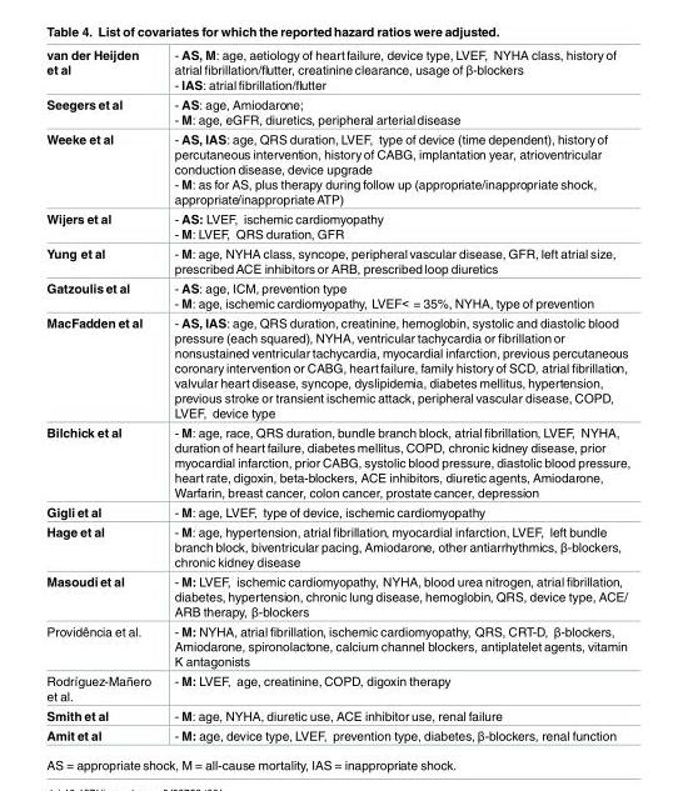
<table><tbody><tr><td>van der Heijden et al</td><td>- AS, M: age, aetiology of heart failure, device type, LVEF, NYHA class, history of atrial fibrillation/flutter, creatinine clearance, usage of β-blockers - IAS: atrial fibrillation/flutter</td></tr><tr><td>Seegers et al</td><td>- AS: age, Amiodarone; - M: age, eGFR, diuretics, peripheral arterialdisease</td></tr><tr><td>Weeke et al</td><td>- AS, IAS: age, QRS duration, LVEF, type of device (time dependent), history of percutaneous intervention, history of CABG, implantation year, atrioventricular conduction disease, device upgrade - M: as for AS, plus therapy during follow up (appropriate/inappropriate shock, appropriate/inappropriateATP)</td></tr><tr><td>Wijers et al</td><td>- AS: LVEF, ischemic cardiomyopathy - M: LVEF, QRS duration, GFR</td></tr><tr><td>Yung et al</td><td>- M: age, NYHA class, syncope, peripheral vascular disease, GFR, left atrial size, prescribed ACE inhibitors or ARB, prescribed loop diuretics</td></tr><tr><td>Gatzoulis et al</td><td>- AS: age, ICM, prevention type - M: age, ischemic cardiomyopathy, LVEF&lt; = 35%, NYHA, type of prevention</td></tr><tr><td>MacFadden et al</td><td>- AS, IAS: age, QRS duration, creatinine, hemoglobin, systolic and diastolic blood pressure (each squared), NYHA, ventricular tachycardia or fibrillation or nonsustained ventricular tachycardia, myocardial infarction, previous percutaneous coronary intervention or CABG, heart failure, family history of SCD, atrial fibrillation, valvular heart disease, syncope, dyslipidemia, diabetes mellitus, hypertension, previous stroke or transient ischemic attack, peripheral vascular disease, COPD, LVEF, device type</td></tr><tr><td>Bilchick et al</td><td>- M: age, race, QRS duration, bundle branch block, atrial fibrillation, LVEF, NYHA, duration of heart failure, diabetes mellitus, COPD, chronic kidney disease, prior myocardial infarction, prior CABG, systolic blood pressure, diastolic blood pressure, heart rate, digoxin, beta-blockers, ACE inhibitors, diuretic agents, Amiodarone, Warfarin, breast cancer, colon cancer, prostate cancer, depression</td></tr><tr><td>Gigli et al</td><td>- M: age, LVEF, type of device, ischemic cardiomyopathy</td></tr><tr><td>Hage et al</td><td>- M: age, hypertension, atrial fibrillation, myocardial infarction, LVEF, left bundle branch block, biventricular pacing, Amiodarone, other antiarrhythmics, β-blockers, chronic kidney disease</td></tr><tr><td>Masoudi et al</td><td>- M: LVEF, ischemic cardiomyopathy, NYHA, blood urea nitrogen, atrial fibrillation, diabetes, hypertension, chronic lung disease, hemoglobin, QRS, device type, ACE/ ARB therapy, β-blockers</td></tr><tr><td>Providência et al.</td><td>- M: NYHA, atrial fibrillation, ischemic cardiomyopathy, QRS, CRT-D, β-blockers, Amiodarone, spironolactone, calcium channel blockers, antiplatelet agents, vitamin K antagonists</td></tr><tr><td>Rodríguez-Mañero et al.</td><td>- M: LVEF, age, creatinine, COPD, digoxin therapy</td></tr><tr><td>Smith et al</td><td>- M: age, NYHA, diuretic use, ACE inhibitor use, renal failure</td></tr><tr><td>Amit et al</td><td>- M: age, device type, LVEF, prevention type, diabetes, β-blockers, renal function</td></tr></tbody></table>